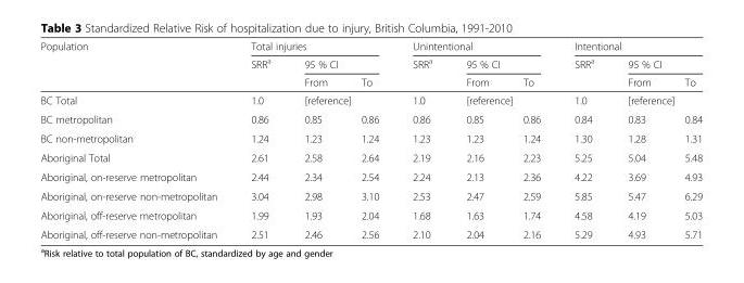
<table><thead><tr><td rowspan="3">Population</td><td colspan="3">Total injuries</td><td colspan="3">Unintentional</td><td colspan="3">Intentional</td></tr><tr><td rowspan="2">SRR<sup>a</sup></td><td colspan="2">95 % CI</td><td rowspan="2">SRR<sup>a</sup></td><td colspan="2">95 % CI</td><td rowspan="2">SRR<sup>a</sup></td><td colspan="2">95 % CI</td></tr><tr><td>From</td><td>To</td><td>From</td><td>To</td><td>From</td><td>To</td></tr></thead><tbody><tr><td>BC Total</td><td>1.0</td><td colspan="2">[reference]</td><td>1.0</td><td colspan="2">[reference]</td><td>1.0</td><td colspan="2">[reference]</td></tr><tr><td>BC metropolitan</td><td>0.86</td><td>0.85</td><td>0.86</td><td>0.86</td><td>0.85</td><td>0.86</td><td>0.84</td><td>0.83</td><td>0.84</td></tr><tr><td>BC non-metropolitan</td><td>1.24</td><td>1.23</td><td>1.24</td><td>1.23</td><td>1.23</td><td>1.24</td><td>1.30</td><td>1.28</td><td>1.31</td></tr><tr><td>Aboriginal Total</td><td>2.61</td><td>2.58</td><td>2.64</td><td>2.19</td><td>2.16</td><td>2.23</td><td>5.25</td><td>5.04</td><td>5.48</td></tr><tr><td>Aboriginal, on-reserve metropolitan</td><td>2.44</td><td>2.34</td><td>2.54</td><td>2.24</td><td>2.13</td><td>2.36</td><td>4.22</td><td>3.69</td><td>4.93</td></tr><tr><td>Aboriginal, on-reserve non-metropolitan</td><td>3.04</td><td>2.98</td><td>3.10</td><td>2.53</td><td>2.47</td><td>2.59</td><td>5.85</td><td>5.47</td><td>6.29</td></tr><tr><td>Aboriginal, off-reserve metropolitan</td><td>1.99</td><td>1.93</td><td>2.04</td><td>1.68</td><td>1.63</td><td>1.74</td><td>4.58</td><td>4.19</td><td>5.03</td></tr><tr><td>Aboriginal, off-reserve non-metropolitan</td><td>2.51</td><td>2.46</td><td>2.56</td><td>2.10</td><td>2.04</td><td>2.16</td><td>5.29</td><td>4.93</td><td>5.71</td></tr></tbody></table>